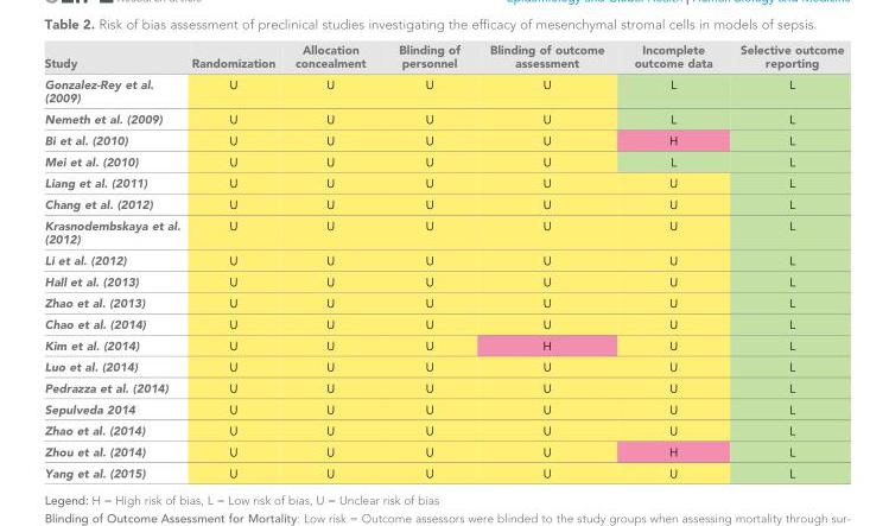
<table><thead><tr><td>Study</td><td>Randomization</td><td>Allocation concealment</td><td>Blinding of personnel</td><td>Blinding of outcome assessment</td><td>Incomplete outcome data</td><td>Selective outcome reporting</td></tr></thead><tbody><tr><td>Gonzalez-Rey et al. (2009)</td><td>U</td><td>U</td><td>U</td><td>U</td><td>L</td><td>L</td></tr><tr><td>Nemeth et al. (2009)</td><td>U</td><td>U</td><td>U</td><td>U</td><td>L</td><td>L</td></tr><tr><td>Bi et al. (2010)</td><td>U</td><td>U</td><td>U</td><td>U</td><td>H</td><td>L</td></tr><tr><td>Mei et al. (2010)</td><td>U</td><td>U</td><td>U</td><td>U</td><td>L</td><td>L</td></tr><tr><td>Liang et al. (2011)</td><td>U</td><td>U</td><td>U</td><td>U</td><td>U</td><td>L</td></tr><tr><td>Chang et al. (2012)</td><td>U</td><td>U</td><td>U</td><td>U</td><td>U</td><td>L</td></tr><tr><td>Krasnodembskaya et al. (2012)</td><td>U</td><td>U</td><td>U</td><td>U</td><td>U</td><td>L</td></tr><tr><td>Li et al. (2012)</td><td>U</td><td>U</td><td>U</td><td>U</td><td>U</td><td>L</td></tr><tr><td>Hall et al. (2013)</td><td>U</td><td>U</td><td>U</td><td>U</td><td>U</td><td>L</td></tr><tr><td>Zhao et al. (2013)</td><td>U</td><td>U</td><td>U</td><td>U</td><td>U</td><td>L</td></tr><tr><td>Chao et al. (2014)</td><td>U</td><td>U</td><td>U</td><td>U</td><td>U</td><td>L</td></tr><tr><td>Kim et al. (2014)</td><td>U</td><td>U</td><td>U</td><td>H</td><td>U</td><td>L</td></tr><tr><td>Luo et al. (2014)</td><td>U</td><td>U</td><td>U</td><td>U</td><td>U</td><td>L</td></tr><tr><td>Pedrazza et al. (2014)</td><td>U</td><td>U</td><td>U</td><td>U</td><td>U</td><td>L</td></tr><tr><td>Sepulveda 2014</td><td>U</td><td>U</td><td>U</td><td>U</td><td>U</td><td>L</td></tr><tr><td>Zhao et al. (2014)</td><td>U</td><td>U</td><td>U</td><td>U</td><td>U</td><td>L</td></tr><tr><td>Zhou et al. (2014)</td><td>U</td><td>U</td><td>U</td><td>U</td><td>H</td><td>L</td></tr><tr><td>Yang et al. (2015)</td><td>U</td><td>U</td><td>U</td><td>U</td><td>U</td><td>L</td></tr></tbody></table>